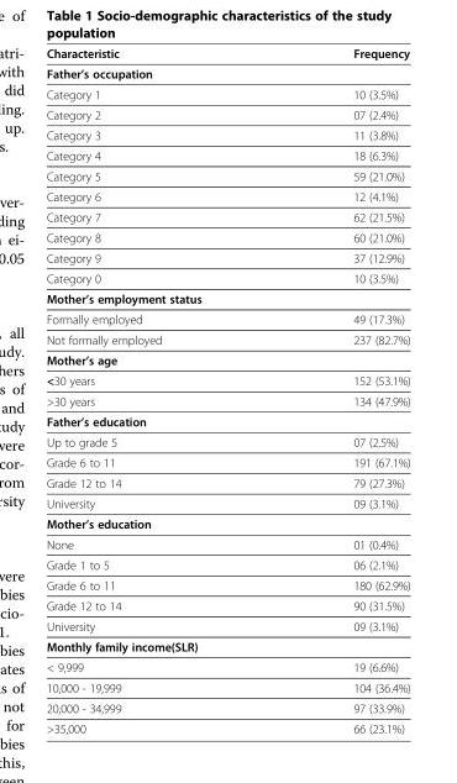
<table><thead><tr><td>Characteristic</td><td>Frequency</td></tr></thead><tbody><tr><td colspan="2">Father’s occupation</td></tr><tr><td>Category 1</td><td>10 (3.5%)</td></tr><tr><td>Category 2</td><td>07 (2.4%)</td></tr><tr><td>Category 3</td><td>11 (3.8%)</td></tr><tr><td>Category 4</td><td>18 (6.3%)</td></tr><tr><td>Category 5</td><td>59 (21.0%)</td></tr><tr><td>Category 6</td><td>12 (4.1%)</td></tr><tr><td>Category 7</td><td>62 (21.5%)</td></tr><tr><td>Category 8</td><td>60 (21.0%)</td></tr><tr><td>Category 9</td><td>37 (12.9%)</td></tr><tr><td>Category 0</td><td>10 (3.5%)</td></tr><tr><td colspan="2">Mother’s employment status</td></tr><tr><td>Formally employed</td><td>49 (17.3%)</td></tr><tr><td>Not formally employed</td><td>237 (82.7%)</td></tr><tr><td colspan="2">Mother’s age</td></tr><tr><td>&lt;30 years</td><td>152 (53.1%)</td></tr><tr><td>&gt;30 years</td><td>134 (47.9%)</td></tr><tr><td colspan="2">Father’s education</td></tr><tr><td>Up to grade 5</td><td>07 (2.5%)</td></tr><tr><td>Grade 6 to 11</td><td>191 (67.1%)</td></tr><tr><td>Grade 12 to 14</td><td>79 (27.3%)</td></tr><tr><td>University</td><td>09 (3.1%)</td></tr><tr><td colspan="2">Mother’s education</td></tr><tr><td>None</td><td>01 (0.4%)</td></tr><tr><td>Grade 1 to 5</td><td>06 (2.1%)</td></tr><tr><td>Grade 6 to 11</td><td>180 (62.9%)</td></tr><tr><td>Grade 12 to 14</td><td>90 (31.5%)</td></tr><tr><td>University</td><td>09 (3.1%)</td></tr><tr><td colspan="2">Monthly family income(SLR)</td></tr><tr><td>&lt; 9,999</td><td>19 (6.6%)</td></tr><tr><td>10,000 - 19,999</td><td>104 (36.4%)</td></tr><tr><td>20,000 - 34,999</td><td>97 (33.9%)</td></tr><tr><td>&gt;35,000</td><td>66 (23.1%)</td></tr></tbody></table>